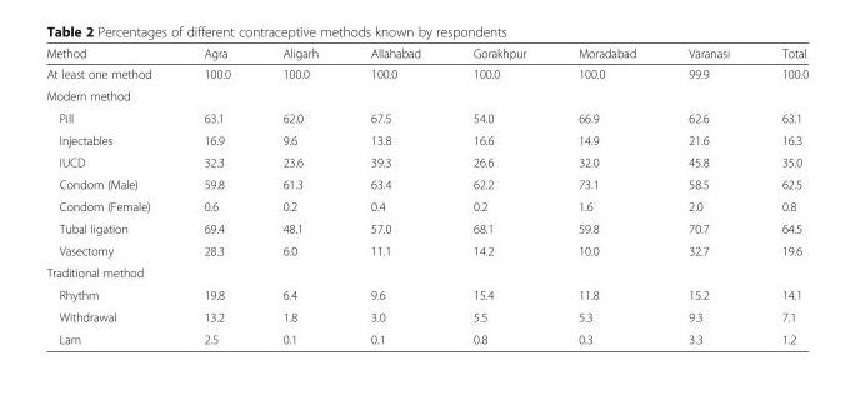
<table><thead><tr><td>Method</td><td>Agra</td><td>Aligarh</td><td>Allahabad</td><td>Gorakhpur</td><td>Moradabad</td><td>Varanasi</td><td>Total</td></tr></thead><tbody><tr><td>At least one method</td><td>100.0</td><td>100.0</td><td>100.0</td><td>100.0</td><td>100.0</td><td>99.9</td><td>100.0</td></tr><tr><td colspan="8">Modern method</td></tr><tr><td>Pill</td><td>63.1</td><td>62.0</td><td>67.5</td><td>54.0</td><td>66.9</td><td>62.6</td><td>63.1</td></tr><tr><td>Injectables</td><td>16.9</td><td>9.6</td><td>13.8</td><td>16.6</td><td>14.9</td><td>21.6</td><td>16.3</td></tr><tr><td>IUCD</td><td>32.3</td><td>23.6</td><td>39.3</td><td>26.6</td><td>32.0</td><td>45.8</td><td>35.0</td></tr><tr><td>Condom (Male)</td><td>59.8</td><td>61.3</td><td>63.4</td><td>62.2</td><td>73.1</td><td>58.5</td><td>62.5</td></tr><tr><td>Condom (Female)</td><td>0.6</td><td>0.2</td><td>0.4</td><td>0.2</td><td>1.6</td><td>2.0</td><td>0.8</td></tr><tr><td>Tubal ligation</td><td>69.4</td><td>48.1</td><td>57.0</td><td>68.1</td><td>59.8</td><td>70.7</td><td>64.5</td></tr><tr><td>Vasectomy</td><td>28.3</td><td>6.0</td><td>11.1</td><td>14.2</td><td>10.0</td><td>32.7</td><td>19.6</td></tr><tr><td colspan="8">Traditional method</td></tr><tr><td>Rhythm</td><td>19.8</td><td>6.4</td><td>9.6</td><td>15.4</td><td>11.8</td><td>15.2</td><td>14.1</td></tr><tr><td>Withdrawal</td><td>13.2</td><td>1.8</td><td>3.0</td><td>5.5</td><td>5.3</td><td>9.3</td><td>7.1</td></tr><tr><td>Lam</td><td>2.5</td><td>0.1</td><td>0.1</td><td>0.8</td><td>0.3</td><td>3.3</td><td>1.2</td></tr></tbody></table>